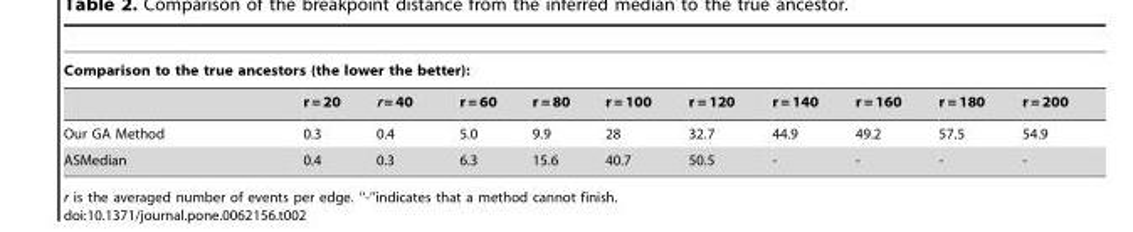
<table><thead><tr><td colspan="11">Comparison to the true ancestors (the lower the better):</td></tr><tr><td></td><td>r = 20</td><td>r = 40</td><td>r = 60</td><td>r = 80</td><td>r = 100</td><td>r = 120</td><td>r = 140</td><td>r = 160</td><td>r = 180</td><td>r = 200</td></tr></thead><tbody><tr><td>Our GA Method</td><td>0.3</td><td>0.4</td><td>5.0</td><td>9.9</td><td>28</td><td>32.7</td><td>44.9</td><td>49.2</td><td>57.5</td><td>54.9</td></tr><tr><td>ASMedian</td><td>0.4</td><td>0.3</td><td>6.3</td><td>15.6</td><td>40.7</td><td>50.5</td><td>-</td><td>-</td><td>-</td><td>-</td></tr></tbody></table>